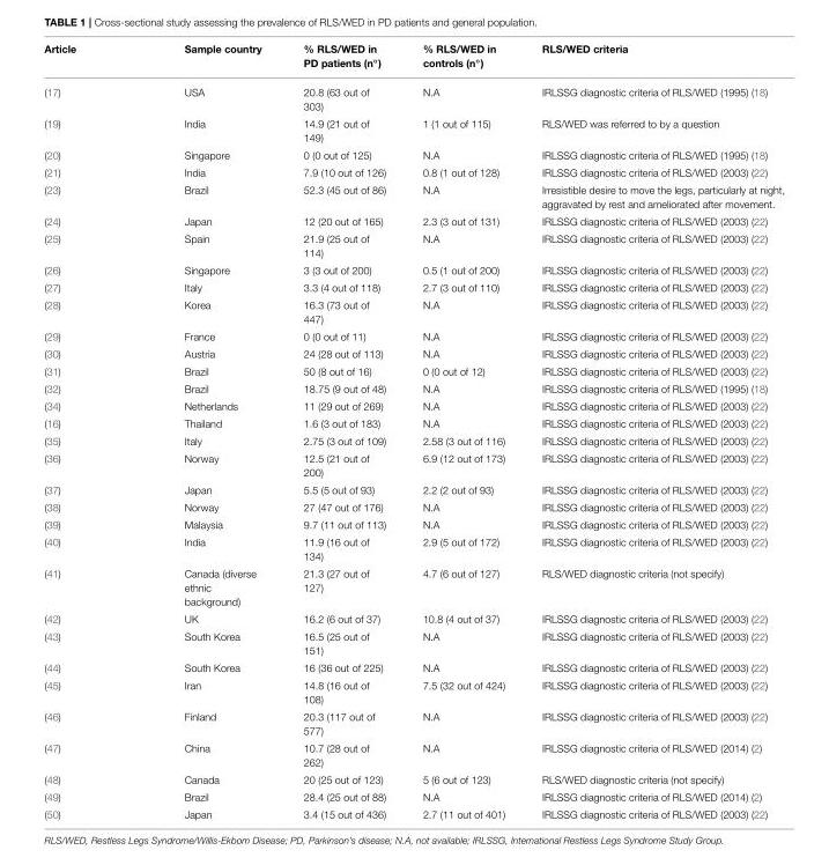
<table><thead><tr><td>Article</td><td>Sample country</td><td>% RLS/WED in PD patients (n◦)</td><td>% RLS/WED in controls (n◦)</td><td>RLS/WED criteria</td></tr></thead><tbody><tr><td>(17)</td><td>USA</td><td>20.8 (63 out of 303)</td><td>N.A</td><td>IRLSSG diagnostic criteria of RLS/WED (1995) (18)</td></tr><tr><td>(19)</td><td>India</td><td>14.9 (21 out of 149)</td><td>1 (1 out of 115)</td><td>RLS/WED was referred to by a question</td></tr><tr><td>(20)</td><td>Singapore</td><td>0 (0 out of 125)</td><td>N.A</td><td>IRLSSG diagnostic criteria of RLS/WED (1995) (18)</td></tr><tr><td>(21)</td><td>India</td><td>7.9 (10 out of 126)</td><td>0.8 (1 out of 128)</td><td>IRLSSG diagnostic criteria of RLS/WED (2003) (22)</td></tr><tr><td>(23)</td><td>Brazil</td><td>52.3 (45 out of 86)</td><td>N.A</td><td>Irresistible desire to move the legs, particularly at night, aggravated by rest and ameliorated after movement.</td></tr><tr><td>(24)</td><td>Japan</td><td>12 (20 out of 165)</td><td>2.3 (3 out of 131)</td><td>IRLSSG diagnostic criteria of RLS/WED (2003) (22)</td></tr><tr><td>(25)</td><td>Spain</td><td>21.9 (25 out of 114)</td><td>N.A</td><td>IRLSSG diagnostic criteria of RLS/WED (2003) (22)</td></tr><tr><td>(26)</td><td>Singapore</td><td>3 (3 out of 200)</td><td>0.5 (1 out of 200)</td><td>IRLSSG diagnostic criteria of RLS/WED (2003) (22)</td></tr><tr><td>(27)</td><td>Italy</td><td>3.3 (4 out of 118)</td><td>2.7 (3 out of 110)</td><td>IRLSSG diagnostic criteria of RLS/WED (2003) (22)</td></tr><tr><td>(28)</td><td>Korea</td><td>16.3 (73 out of 447)</td><td>N.A</td><td>IRLSSG diagnostic criteria of RLS/WED (2003) (22)</td></tr><tr><td>(29)</td><td>France</td><td>0 (0 out of 11)</td><td>N.A</td><td>IRLSSG diagnostic criteria of RLS/WED (2003) (22)</td></tr><tr><td>(30)</td><td>Austria</td><td>24 (28 out of 113)</td><td>N.A</td><td>IRLSSG diagnostic criteria of RLS/WED (2003) (22)</td></tr><tr><td>(31)</td><td>Brazil</td><td>50 (8 out of 16)</td><td>0 (0 out of 12)</td><td>IRLSSG diagnostic criteria of RLS/WED (2003) (22)</td></tr><tr><td>(32)</td><td>Brazil</td><td>18.75 (9 out of 48)</td><td>N.A</td><td>IRLSSG diagnostic criteria of RLS/WED (1995) (18)</td></tr><tr><td>(34)</td><td>Netherlands</td><td>11 (29 out of 269)</td><td>N.A</td><td>IRLSSG diagnostic criteria of RLS/WED (2003) (22)</td></tr><tr><td>(16)</td><td>Thailand</td><td>1.6 (3 out of 183)</td><td>N.A</td><td>IRLSSG diagnostic criteria of RLS/WED (2003) (22)</td></tr><tr><td>(35)</td><td>Italy</td><td>2.75 (3 out of 109)</td><td>2.58 (3 out of 116)</td><td>IRLSSG diagnostic criteria of RLS/WED (2003) (22)</td></tr><tr><td>(36)</td><td>Norway</td><td>12.5 (21 out of 200)</td><td>6.9 (12 out of 173)</td><td>IRLSSG diagnostic criteria of RLS/WED (2003) (22)</td></tr><tr><td>(37)</td><td>Japan</td><td>5.5 (5 out of 93)</td><td>2.2 (2 out of 93)</td><td>IRLSSG diagnostic criteria of RLS/WED (2003) (22)</td></tr><tr><td>(38)</td><td>Norway</td><td>27 (47 out of 176)</td><td>N.A</td><td>IRLSSG diagnostic criteria of RLS/WED (2003) (22)</td></tr><tr><td>(39)</td><td>Malaysia</td><td>9.7 (11 out of 113)</td><td>N.A</td><td>IRLSSG diagnostic criteria of RLS/WED (2003) (22)</td></tr><tr><td>(40)</td><td>India</td><td>11.9 (16 out of 134)</td><td>2.9 (5 out of 172)</td><td>IRLSSG diagnostic criteria of RLS/WED (2003) (22)</td></tr><tr><td>(41)</td><td>Canada (diverse ethnic background)</td><td>21.3 (27 out of 127)</td><td>4.7 (6 out of 127)</td><td>RLS/WED diagnostic criteria (not specify)</td></tr><tr><td>(42)</td><td>UK</td><td>16.2 (6 out of 37)</td><td>10.8 (4 out of 37)</td><td>IRLSSG diagnostic criteria of RLS/WED (2003) (22)</td></tr><tr><td>(43)</td><td>South Korea</td><td>16.5 (25 out of 151)</td><td>N.A</td><td>IRLSSG diagnostic criteria of RLS/WED (2003) (22)</td></tr><tr><td>(44)</td><td>South Korea</td><td>16 (36 out of 225)</td><td>N.A</td><td>IRLSSG diagnostic criteria of RLS/WED (2003) (22)</td></tr><tr><td>(45)</td><td>Iran</td><td>14.8 (16 out of 108)</td><td>7.5 (32 out of 424)</td><td>IRLSSG diagnostic criteria of RLS/WED (2003) (22)</td></tr><tr><td>(46)</td><td>Finland</td><td>20.3 (117 out of 577)</td><td>N.A</td><td>IRLSSG diagnostic criteria of RLS/WED (2003) (22)</td></tr><tr><td>(47)</td><td>China</td><td>10.7 (28 out of 262)</td><td>N.A</td><td>IRLSSG diagnostic criteria of RLS/WED (2014) (2)</td></tr><tr><td>(48)</td><td>Canada</td><td>20 (25 out of 123)</td><td>5 (6 out of 123)</td><td>RLS/WED diagnostic criteria (not specify)</td></tr><tr><td>(49)</td><td>Brazil</td><td>28.4 (25 out of 88)</td><td>N.A</td><td>IRLSSG diagnostic criteria of RLS/WED (2014) (2)</td></tr><tr><td>(50)</td><td>Japan</td><td>3.4 (15 out of 436)</td><td>2.7 (11 out of 401)</td><td>IRLSSG diagnostic criteria of RLS/WED (2003) (22)</td></tr></tbody></table>